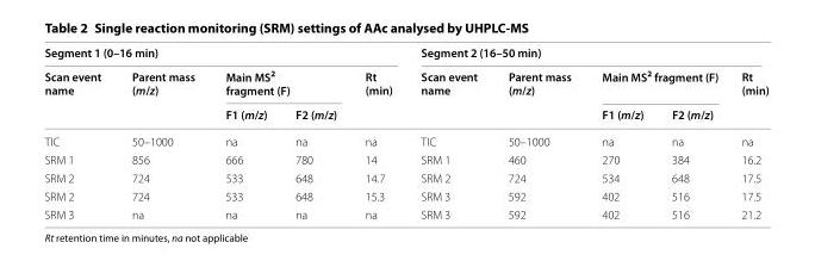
<table><thead><tr><td colspan="5">Segment 1 (0–16 min)</td><td colspan="5">Segment 2 (16–50 min)</td></tr><tr><td rowspan="2">Scan event name</td><td rowspan="2">Parent mass (m/z)</td><td colspan="2">Main MS<sup>2</sup> fragment (F)</td><td rowspan="2">Rt (min)</td><td rowspan="2">Scan event name</td><td rowspan="2">Parent mass (m/z)</td><td colspan="2">Main MS<sup>2</sup> fragment (F)</td><td rowspan="2">Rt (min)</td></tr><tr><td>F1 (m/z)</td><td>F2 (m/z)</td><td>F1 (m/z)</td><td>F2 (m/z)</td></tr></thead><tbody><tr><td>TIC</td><td>50–1000</td><td>na</td><td>na</td><td>na</td><td>TIC</td><td>50–1000</td><td>na</td><td>na</td><td>na</td></tr><tr><td>SRM 1</td><td>856</td><td>666</td><td>780</td><td>14</td><td>SRM 1</td><td>460</td><td>270</td><td>384</td><td>16.2</td></tr><tr><td>SRM 2</td><td>724</td><td>533</td><td>648</td><td>14.7</td><td>SRM 2</td><td>724</td><td>534</td><td>648</td><td>17.5</td></tr><tr><td>SRM 2</td><td>724</td><td>533</td><td>648</td><td>15.3</td><td>SRM 3</td><td>592</td><td>402</td><td>516</td><td>17.5</td></tr><tr><td>SRM 3</td><td>na</td><td>na</td><td>na</td><td>na</td><td>SRM 3</td><td>592</td><td>402</td><td>516</td><td>21.2</td></tr></tbody></table>